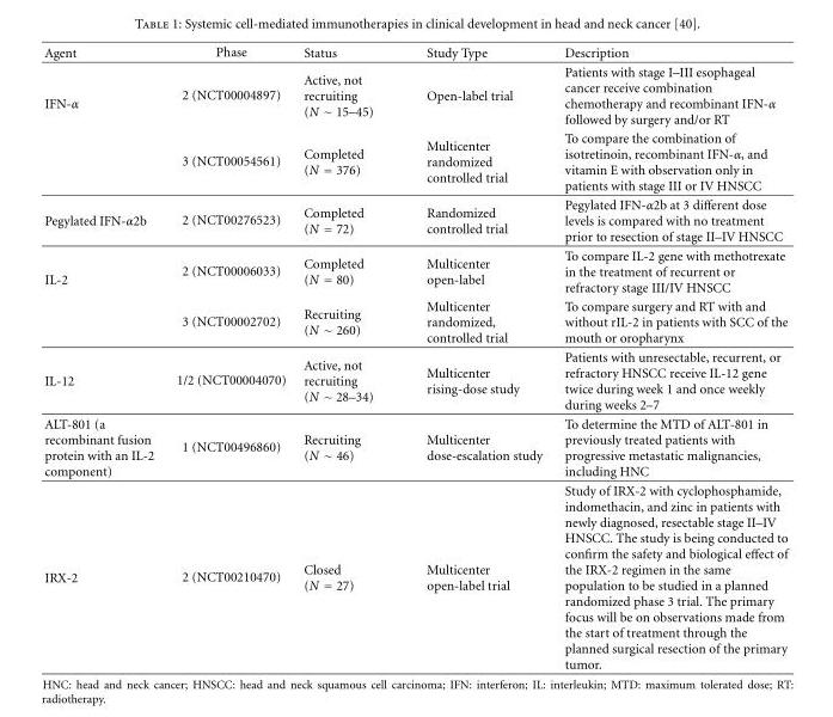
<table><thead><tr><td>Agent</td><td>Phase</td><td>Status</td><td>Study Type</td><td>Description</td></tr></thead><tbody><tr><td rowspan="2">IFN-α</td><td>2 (NCT00004897)</td><td>Active, not recruiting (N ∼ 15–45)</td><td>Open-label trial</td><td>Patients with stage I–III esophageal cancer receive combination chemotherapy and recombinant IFN-α followed by surgery and/or RT</td></tr><tr><td>3 (NCT00054561)</td><td>Completed (N = 376)</td><td>Multicenter randomized controlled trial</td><td>To compare the combination of isotretinoin, recombinant IFN-α, and vitamin E with observation only in patients with stage III or IV HNSCC</td></tr><tr><td>Pegylated IFN-α2b</td><td>2 (NCT00276523)</td><td>Completed (N = 72)</td><td>Randomized controlled trial</td><td>Pegylated IFN-α2b at 3 different dose levels is compared with no treatment prior to resection of stage II–IV HNSCC</td></tr><tr><td rowspan="2">IL-2</td><td>2 (NCT00006033)</td><td>Completed (N = 80)</td><td>Multicenter open-label</td><td>To compare IL-2 gene with methotrexate in the treatment of recurrent or refractory stage III/IV HNSCC</td></tr><tr><td>3 (NCT00002702)</td><td>Recruiting (N ∼ 260)</td><td>Multicenter randomized, controlled trial</td><td>To compare surgery and RT with and without rIL-2 in patients with SCC of the mouth or oropharynx</td></tr><tr><td>IL-12</td><td>1/2 (NCT00004070)</td><td>Active, not recruiting (N ∼ 28–34)</td><td>Multicenter rising-dose study</td><td>Patients with unresectable, recurrent, or refractory HNSCC receive IL-12 gene twice during week 1 and once weekly during weeks 2–7</td></tr><tr><td>ALT-801 (a recombinant fusion protein with an IL-2 component)</td><td>1 (NCT00496860)</td><td>Recruiting (N ∼ 46)</td><td>Multicenter dose-escalation study</td><td>To determine the MTD of ALT-801 in previously treated patients with progressive metastatic malignancies, including HNC</td></tr><tr><td>IRX-2</td><td>2 (NCT00210470)</td><td>Closed (N = 27)</td><td>Multicenter open-label trial</td><td>Study of IRX-2 with cyclophosphamide, indomethacin, and zinc in patients with newly diagnosed, resectable stage II–IV HNSCC. The study is being conducted to confirm the safety and biological effect of the IRX-2 regimen in the same population to be studied in a planned randomized phase 3 trial. The primary focus will be on observations made from the start of treatment through the planned surgical resection of the primary tumor.</td></tr></tbody></table>